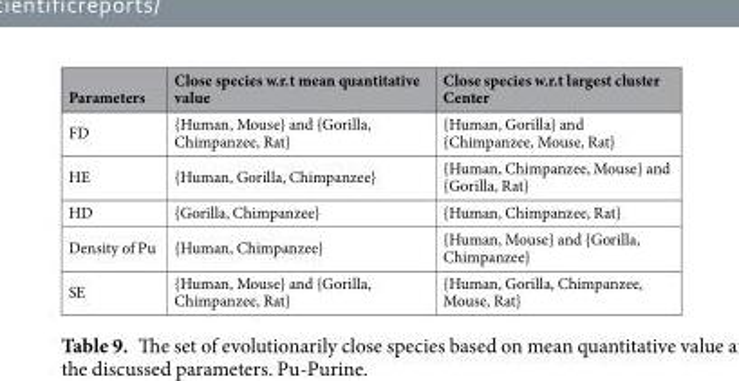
<table><thead><tr><td>Parameters</td><td>Close species w.r.t mean quantitative value</td><td>Close species w.r.t largest cluster Center</td></tr></thead><tbody><tr><td>FD</td><td>{Human, Mouse} and {Gorilla, Chimpanzee, Rat}</td><td>{Human, Gorilla} and {Chimpanzee, Mouse, Rat}</td></tr><tr><td>HE</td><td>{Human, Gorilla, Chimpanzee}</td><td>{Human, Chimpanzee, Mouse} and {Gorilla, Rat}</td></tr><tr><td>HD</td><td>{Gorilla, Chimpanzee}</td><td>{Human, Chimpanzee, Rat}</td></tr><tr><td>Density of Pu</td><td>{Human, Chimpanzee}</td><td>{Human, Mouse} and {Gorilla, Chimpanzee}</td></tr><tr><td>SE</td><td>{Human, Mouse} and {Gorilla, Chimpanzee, Rat}</td><td>{Human, Gorilla, Chimpanzee, Mouse, Rat}</td></tr></tbody></table>